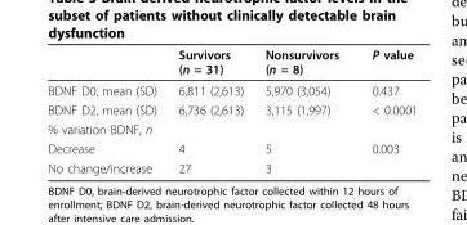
<table><thead><tr><td></td><td>Survivors (n = 31)</td><td>Nonsurvivors (n = 8)</td><td>P value</td></tr></thead><tbody><tr><td>BDNF D0, mean (SD)</td><td>6,811 (2,613)</td><td>5,970 (3,054)</td><td>0.437</td></tr><tr><td>BDNF D2, mean (SD)</td><td>6,736 (2,613)</td><td>3,115 (1,997)</td><td>&lt; 0.0001</td></tr><tr><td colspan="4">% variation BDNF, n</td></tr><tr><td>Decrease</td><td>4</td><td>5</td><td>0.003</td></tr><tr><td>No change/increase</td><td>27</td><td>3</td><td></td></tr></tbody></table>